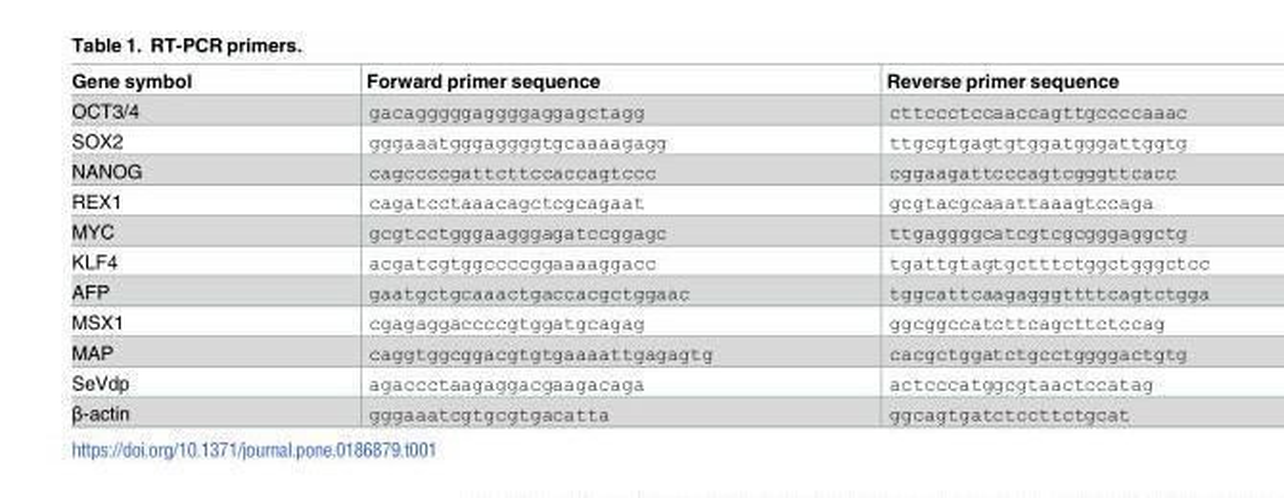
<table><thead><tr><td>Gene symbol</td><td>Forward primer sequence</td><td>Reverse primer sequence</td></tr></thead><tbody><tr><td>OCT3/4</td><td>gacagggggaggggaggagctagg</td><td>cttccctccaaccagttgccccaaac</td></tr><tr><td>SOX2</td><td>gggaaatgggaggggtgcaaaagagg</td><td>ttgcgtgagtgtggatgggattggtg</td></tr><tr><td>NANOG</td><td>cagccccgattcttccaccagtccc</td><td>cggaagattcccagtcgggttcacc</td></tr><tr><td>REX1</td><td>cagatcctaaacagctcgcagaat</td><td>gcgtacgcaaattaaagtccaga</td></tr><tr><td>MYC</td><td>gcgtcctgggaagggagatccggagc</td><td>ttgaggggcatcgtcgcgggaggctg</td></tr><tr><td>KLF4</td><td>acgatcgtggccccggaaaaggacc</td><td>tgattgtagtgctttctggctgggctcc</td></tr><tr><td>AFP</td><td>gaatgctgcaaactgaccacgctggaac</td><td>tggcattcaagagggttttcagtctgga</td></tr><tr><td>MSX1</td><td>cgagaggaccccgtggatgcagag</td><td>ggcggccatcttcagcttctccag</td></tr><tr><td>MAP</td><td>caggtggcggacgtgtgaaaattgagagtg</td><td>cacgctggatctgcctggggactgtg</td></tr><tr><td>SeVdp</td><td>agaccctaagaggacgaagacaga</td><td>actcccatggcgtaactccatag</td></tr><tr><td>β-actin</td><td>gggaaatcgtgcgtgacatta</td><td>ggcagtgatctccttctgcat</td></tr></tbody></table>